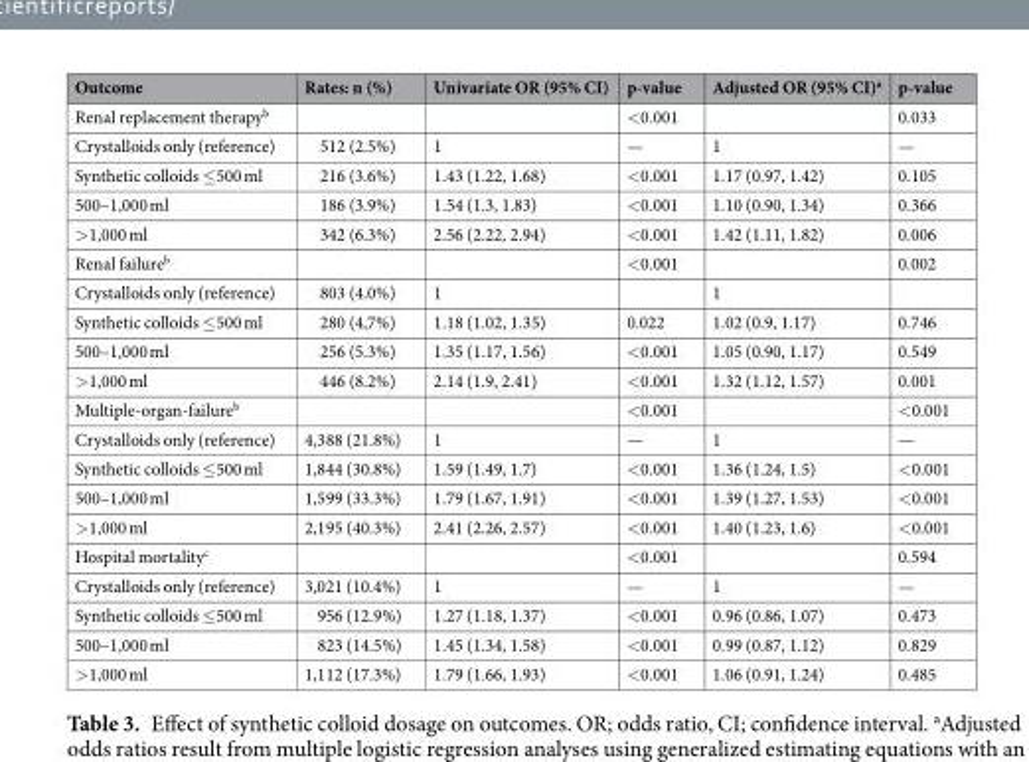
<table><thead><tr><td>Outcome</td><td>Rates: n (%)</td><td>Univariate OR (95% CI)</td><td>p-value</td><td>Adjusted OR (95% CI)<sup>a</sup></td><td>p-value</td></tr></thead><tbody><tr><td>Renal replacement therapy<sup>b</sup></td><td></td><td></td><td>&lt;0.001</td><td></td><td>0.033</td></tr><tr><td>Crystalloids only (reference)</td><td>512 (2.5%)</td><td>1</td><td>—</td><td>1</td><td>—</td></tr><tr><td>Synthetic colloids ≤500 ml</td><td>216 (3.6%)</td><td>1.43 (1.22, 1.68)</td><td>&lt;0.001</td><td>1.17 (0.97, 1.42)</td><td>0.105</td></tr><tr><td>500–1,000 ml</td><td>186 (3.9%)</td><td>1.54 (1.3, 1.83)</td><td>&lt;0.001</td><td>1.10 (0.90, 1.34)</td><td>0.366</td></tr><tr><td>&gt;1,000 ml</td><td>342 (6.3%)</td><td>2.56 (2.22, 2.94)</td><td>&lt;0.001</td><td>1.42 (1.11, 1.82)</td><td>0.006</td></tr><tr><td>Renal failure<sup>b</sup></td><td></td><td></td><td>&lt;0.001</td><td></td><td>0.002</td></tr><tr><td>Crystalloids only (reference)</td><td>803 (4.0%)</td><td>1</td><td></td><td>1</td><td></td></tr><tr><td>Synthetic colloids ≤500 ml</td><td>280 (4,7%)</td><td>1.18 (1.02, 1.35)</td><td>0.022</td><td>1.02 (0.9, 1.17)</td><td>0.746</td></tr><tr><td>500–1,000 ml</td><td>256 (5.3%)</td><td>1.35 (1.17, 1.56)</td><td>&lt;0.001</td><td>1.05 (0.90, 1.17)</td><td>0.549</td></tr><tr><td>&gt;1,000 ml</td><td>446 (8.2%)</td><td>2.14 (1.9, 2.41)</td><td>&lt;0.001</td><td>1.32 (1.12, 1.57)</td><td>0.001</td></tr><tr><td>Multiple-organ-failure<sup>b</sup></td><td></td><td></td><td>&lt;0.001</td><td></td><td>&lt;0.001</td></tr><tr><td>Crystalloids only (reference)</td><td>4,388 (21.8%)</td><td>1</td><td>—</td><td>1</td><td>—</td></tr><tr><td>Synthetic colloids ≤500 ml</td><td>1,844 (30.8%)</td><td>1.59 (1.49, 1.7)</td><td>&lt;0.001</td><td>1.36 (1.24, 1.5)</td><td>&lt;0.001</td></tr><tr><td>500–1,000 ml</td><td>1,599 (33.3%)</td><td>1.79 (1.67, 1.91)</td><td>&lt;0.001</td><td>1.39 (1.27, 1.53)</td><td>&lt;0.001</td></tr><tr><td>&gt;1,000 ml</td><td>2,195 (40.3%)</td><td>2.41 (2.26, 2.57)</td><td>&lt;0.001</td><td>1.40 (1.23, 1.6)</td><td>&lt;0.001</td></tr><tr><td>Hospital mortality<sup>c</sup></td><td></td><td></td><td>&lt;0.001</td><td></td><td>0.594</td></tr><tr><td>Crystalloids only (reference)</td><td>3,021 (10.4%)</td><td>1</td><td>—</td><td>1</td><td>—</td></tr><tr><td>Synthetic colloids ≤500 ml</td><td>956 (12.9%)</td><td>1.27 (1.18, 1.37)</td><td>&lt;0.001</td><td>0.96 (0.86, 1.07)</td><td>0.473</td></tr><tr><td>500–1,000 ml</td><td>823 (14.5%)</td><td>1.45 (1.34, 1.58)</td><td>&lt;0.001</td><td>0.99 (0.87, 1.12)</td><td>0.829</td></tr><tr><td>&gt;1,000 ml</td><td>1,112 (17.3%)</td><td>1.79 (1.66, 1.93)</td><td>&lt;0.001</td><td>1.06 (0.91, 1.24)</td><td>0.485</td></tr></tbody></table>